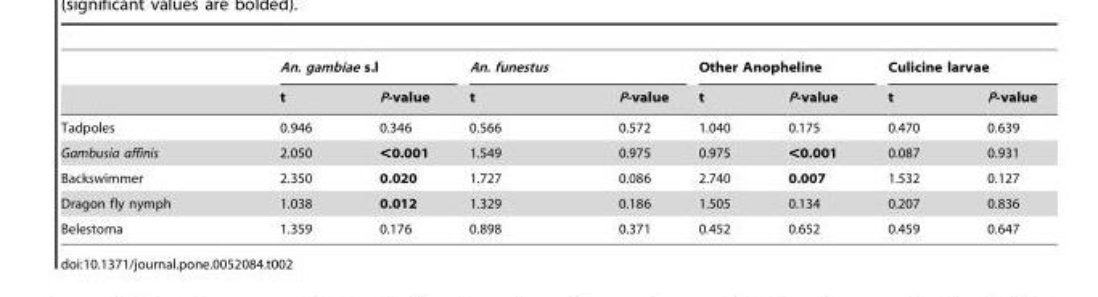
<table><thead><tr><td rowspan="2"></td><td colspan="2">An. gambiae s.l</td><td colspan="2">An. funestus</td><td colspan="2">Other Anopheline</td><td colspan="2">Culicine larvae</td></tr><tr><td>t</td><td>P-value</td><td>t</td><td>P-value</td><td>t</td><td>P-value</td><td>t</td><td>P-value</td></tr></thead><tbody><tr><td>Tadpoles</td><td>0.946</td><td>0.346</td><td>0.566</td><td>0.572</td><td>1.040</td><td>0.175</td><td>0.470</td><td>0.639</td></tr><tr><td>Gambusia affinis</td><td>2.050</td><td>&lt;0.001</td><td>1.549</td><td>0.975</td><td>0.975</td><td>&lt;0.001</td><td>0.087</td><td>0.931</td></tr><tr><td>Backswimmer</td><td>2.350</td><td>0.020</td><td>1.727</td><td>0.086</td><td>2.740</td><td>0.007</td><td>1.532</td><td>0.127</td></tr><tr><td>Dragon fly nymph</td><td>1.038</td><td>0.012</td><td>1.329</td><td>0.186</td><td>1.505</td><td>0.134</td><td>0.207</td><td>0.836</td></tr><tr><td>Belestoma</td><td>1.359</td><td>0.176</td><td>0.898</td><td>0.371</td><td>0.452</td><td>0.652</td><td>0.459</td><td>0.647</td></tr></tbody></table>